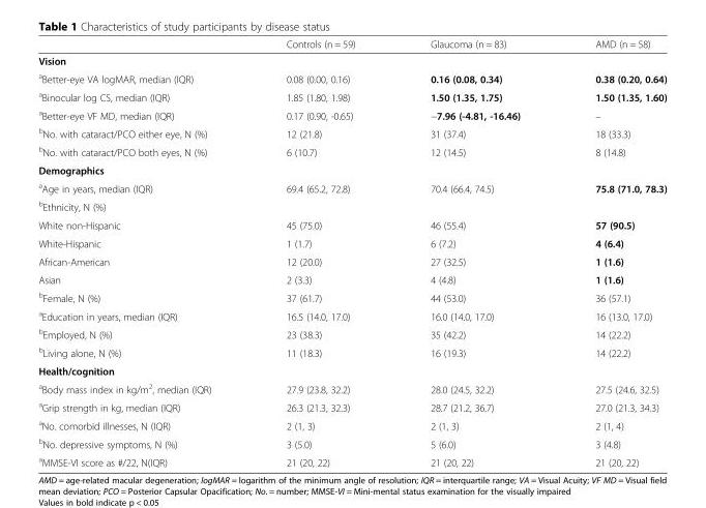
<table><thead><tr><td></td><td>Controls (n = 59)</td><td>Glaucoma (n = 83)</td><td>AMD (n = 58)</td></tr></thead><tbody><tr><td colspan="4">Vision</td></tr><tr><td><sup>a</sup>Better-eye VA logMAR, median (IQR)</td><td>0.08 (0.00, 0.16)</td><td>0.16 (0.08, 0.34)</td><td>0.38 (0.20, 0.64)</td></tr><tr><td><sup>a</sup>Binocular log CS, median (IQR)</td><td>1.85 (1.80, 1.98)</td><td>1.50 (1.35, 1.75)</td><td>1.50 (1.35, 1.60)</td></tr><tr><td><sup>a</sup>Better-eye VF MD, median (IQR)</td><td>0.17 (0.90, -0.65)</td><td>−7.96 (-4.81, -16.46)</td><td>–</td></tr><tr><td><sup>b</sup>No. with cataract/PCO either eye, N (%)</td><td>12 (21.8)</td><td>31 (37.4)</td><td>18 (33.3)</td></tr><tr><td><sup>b</sup>No. with cataract/PCO both eyes, N (%)</td><td>6 (10.7)</td><td>12 (14.5)</td><td>8 (14.8)</td></tr><tr><td colspan="4">Demographics</td></tr><tr><td><sup>a</sup>Age in years, median (IQR)</td><td>69.4 (65.2, 72.8)</td><td>70.4 (66.4, 74.5)</td><td>75.8 (71.0, 78.3)</td></tr><tr><td colspan="4"><sup>b</sup>Ethnicity, N (%)</td></tr><tr><td>White non-Hispanic</td><td>45 (75.0)</td><td>46 (55.4)</td><td>57 (90.5)</td></tr><tr><td>White-Hispanic</td><td>1 (1.7)</td><td>6 (7.2)</td><td>4 (6.4)</td></tr><tr><td>African-American</td><td>12 (20.0)</td><td>27 (32.5)</td><td>1 (1.6)</td></tr><tr><td>Asian</td><td>2 (3.3)</td><td>4 (4.8)</td><td>1 (1.6)</td></tr><tr><td><sup>b</sup>Female, N (%)</td><td>37 (61.7)</td><td>44 (53.0)</td><td>36 (57.1)</td></tr><tr><td><sup>a</sup>Education in years, median (IQR)</td><td>16.5 (14.0, 17.0)</td><td>16.0 (14.0, 17.0)</td><td>16 (13.0, 17.0)</td></tr><tr><td><sup>b</sup>Employed, N (%)</td><td>23 (38.3)</td><td>35 (42.2)</td><td>14 (22.2)</td></tr><tr><td><sup>b</sup>Living alone, N (%)</td><td>11 (18.3)</td><td>16 (19.3)</td><td>14 (22.2)</td></tr><tr><td colspan="4">Health/cognition</td></tr><tr><td><sup>a</sup>Body mass index in kg/m<sup>2</sup>, median (IQR)</td><td>27.9 (23.8, 32.2)</td><td>28.0 (24.5, 32.2)</td><td>27.5 (24.6, 32.5)</td></tr><tr><td><sup>a</sup>Grip strength in kg, median (IQR)</td><td>26.3 (21.3, 32.3)</td><td>28.7 (21.2, 36.7)</td><td>27.0 (21.3, 34.3)</td></tr><tr><td><sup>a</sup>No. comorbid illnesses, N (IQR)</td><td>2 (1, 3)</td><td>2 (1, 3)</td><td>2 (1, 4)</td></tr><tr><td><sup>b</sup>No. depressive symptoms, N (%)</td><td>3 (5.0)</td><td>5 (6.0)</td><td>3 (4.8)</td></tr><tr><td><sup>a</sup>MMSE-VI score as #/22, N(IQR)</td><td>21 (20, 22)</td><td>21 (20, 22)</td><td>21 (20, 22)</td></tr></tbody></table>